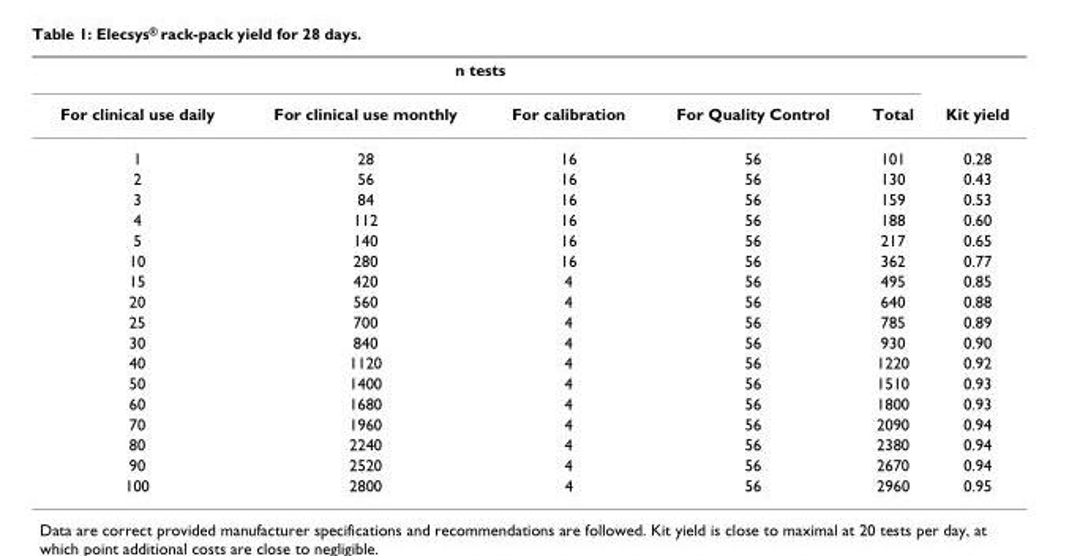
<table><thead><tr><td colspan="5">n tests</td><td rowspan="2">Kit yield</td></tr><tr><td>For clinical use daily</td><td>For clinical use monthly</td><td>For calibration</td><td>For Quality Control</td><td>Total</td></tr></thead><tbody><tr><td>1</td><td>28</td><td>16</td><td>56</td><td>101</td><td>0.28</td></tr><tr><td>2</td><td>56</td><td>16</td><td>56</td><td>130</td><td>0.43</td></tr><tr><td>3</td><td>84</td><td>16</td><td>56</td><td>159</td><td>0.53</td></tr><tr><td>4</td><td>112</td><td>16</td><td>56</td><td>188</td><td>0.60</td></tr><tr><td>5</td><td>140</td><td>16</td><td>56</td><td>217</td><td>0.65</td></tr><tr><td>10</td><td>280</td><td>16</td><td>56</td><td>362</td><td>0.77</td></tr><tr><td>15</td><td>420</td><td>4</td><td>56</td><td>495</td><td>0.85</td></tr><tr><td>20</td><td>560</td><td>4</td><td>56</td><td>640</td><td>0.88</td></tr><tr><td>25</td><td>700</td><td>4</td><td>56</td><td>785</td><td>0.89</td></tr><tr><td>30</td><td>840</td><td>4</td><td>56</td><td>930</td><td>0.90</td></tr><tr><td>40</td><td>1120</td><td>4</td><td>56</td><td>1220</td><td>0.92</td></tr><tr><td>50</td><td>1400</td><td>4</td><td>56</td><td>1510</td><td>0.93</td></tr><tr><td>60</td><td>1680</td><td>4</td><td>56</td><td>1800</td><td>0.93</td></tr><tr><td>70</td><td>1960</td><td>4</td><td>56</td><td>2090</td><td>0.94</td></tr><tr><td>80</td><td>2240</td><td>4</td><td>56</td><td>2380</td><td>0.94</td></tr><tr><td>90</td><td>2520</td><td>4</td><td>56</td><td>2670</td><td>0.94</td></tr><tr><td>100</td><td>2800</td><td>4</td><td>56</td><td>2960</td><td>0.95</td></tr></tbody></table>